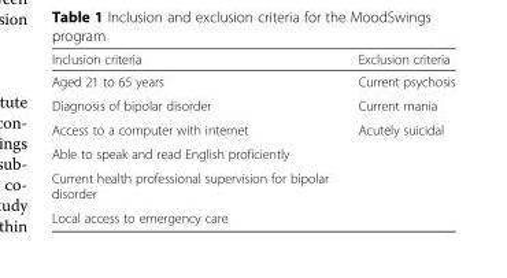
<table><thead><tr><td>Inclusion criteria</td><td>Exclusion criteria</td></tr></thead><tbody><tr><td>Aged 21 to 65 years</td><td>Current psychosis</td></tr><tr><td>Diagnosis of bipolar disorder</td><td>Current mania</td></tr><tr><td>Access to a computer with internet</td><td>Acutely suicidal</td></tr><tr><td colspan="2">Able to speak and read English proficiently</td></tr><tr><td colspan="2">Current health professional supervision for bipolar disorder</td></tr><tr><td>Local access to emergency care</td><td></td></tr></tbody></table>